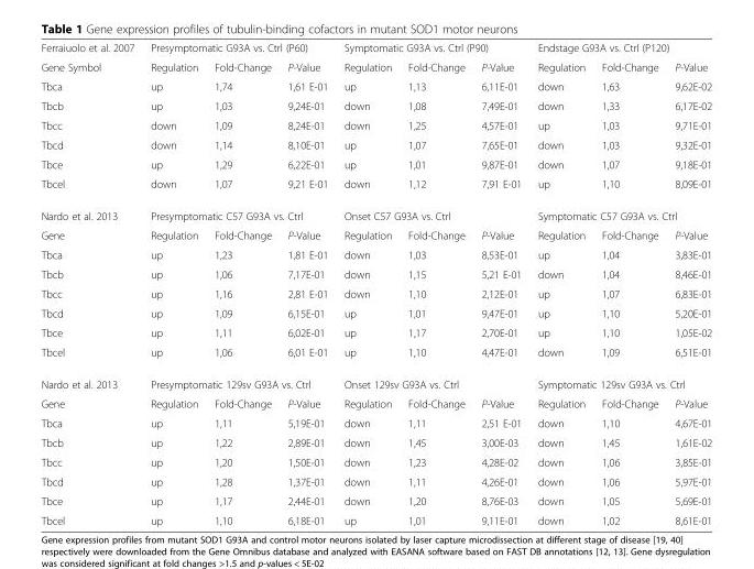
<table><tbody><tr><td>Ferraiuolo et al. 2007</td><td colspan="3">Presymptomatic G93A vs. Ctrl (P60)</td><td colspan="3">Symptomatic G93A vs. Ctrl (P90)</td><td colspan="3">Endstage G93A vs. Ctrl (P120)</td></tr><tr><td>Gene Symbol</td><td>Regulation</td><td>Fold-Change</td><td>P-Value</td><td>Regulation</td><td>Fold-Change</td><td>P-Value</td><td>Regulation</td><td>Fold-Change</td><td>P-Value</td></tr><tr><td>Tbca</td><td>up</td><td>1,74</td><td>1,61 E-01</td><td>up</td><td>1,13</td><td>6,11E-01</td><td>down</td><td>1,63</td><td>9,62E-02</td></tr><tr><td>Tbcb</td><td>up</td><td>1,03</td><td>9,24E-01</td><td>down</td><td>1,08</td><td>7,49E-01</td><td>down</td><td>1,33</td><td>6,17E-02</td></tr><tr><td>Tbcc</td><td>down</td><td>1,09</td><td>8,24E-01</td><td>down</td><td>1,25</td><td>4,57E-01</td><td>up</td><td>1,03</td><td>9,71E-01</td></tr><tr><td>Tbcd</td><td>down</td><td>1,14</td><td>8,10E-01</td><td>up</td><td>1,07</td><td>7,65E-01</td><td>down</td><td>1,03</td><td>9,32E-01</td></tr><tr><td>Tbce</td><td>up</td><td>1,29</td><td>6,22E-01</td><td>up</td><td>1,01</td><td>9,87E-01</td><td>down</td><td>1,07</td><td>9,18E-01</td></tr><tr><td>Tbcel</td><td>down</td><td>1,07</td><td>9,21 E-01</td><td>down</td><td>1,12</td><td>7,91 E-01</td><td>up</td><td>1,10</td><td>8,09E-01</td></tr><tr><td>Nardo et al. 2013</td><td colspan="3">Presymptomatic C57 G93A vs. Ctrl</td><td colspan="3">Onset C57 G93A vs. Ctrl</td><td colspan="3">Symptomatic C57 G93A vs. Ctrl</td></tr><tr><td>Gene</td><td>Regulation</td><td>Fold-Change</td><td>P-Value</td><td>Regulation</td><td>Fold-Change</td><td>P-Value</td><td>Regulation</td><td>Fold-Change</td><td>P-Value</td></tr><tr><td>Tbca</td><td>up</td><td>1,23</td><td>1,81 E-01</td><td>down</td><td>1,03</td><td>8,53E-01</td><td>up</td><td>1,04</td><td>3,83E-01</td></tr><tr><td>Tbcb</td><td>up</td><td>1,06</td><td>7,17E-01</td><td>down</td><td>1,15</td><td>5,21 E-01</td><td>down</td><td>1,04</td><td>8,46E-01</td></tr><tr><td>Tbcc</td><td>up</td><td>1,16</td><td>2,81 E-01</td><td>down</td><td>1,10</td><td>2,12E-01</td><td>up</td><td>1,07</td><td>6,83E-01</td></tr><tr><td>Tbcd</td><td>up</td><td>1,09</td><td>6,15E-01</td><td>up</td><td>1,01</td><td>9,47E-01</td><td>up</td><td>1,10</td><td>5,20E-01</td></tr><tr><td>Tbce</td><td>up</td><td>1,11</td><td>6,02E-01</td><td>up</td><td>1,17</td><td>2,70E-01</td><td>up</td><td>1,10</td><td>1,05E-02</td></tr><tr><td>Tbcel</td><td>up</td><td>1,06</td><td>6,01 E-01</td><td>up</td><td>1,10</td><td>4,47E-01</td><td>down</td><td>1,09</td><td>6,51E-01</td></tr><tr><td>Nardo et al. 2013</td><td colspan="3">Presymptomatic 129sv G93A vs. Ctrl</td><td colspan="3">Onset 129sv G93A vs. Ctrl</td><td colspan="3">Symptomatic 129sv G93A vs. Ctrl</td></tr><tr><td>Gene</td><td>Regulation</td><td>Fold-Change</td><td>P-Value</td><td>Regulation</td><td>Fold-Change</td><td>P-Value</td><td>Regulation</td><td>Fold-Change</td><td>P-Value</td></tr><tr><td>Tbca</td><td>up</td><td>1,11</td><td>5,19E-01</td><td>down</td><td>1,11</td><td>2,51 E-01</td><td>down</td><td>1,10</td><td>4,67E-01</td></tr><tr><td>Tbcb</td><td>up</td><td>1,22</td><td>2,89E-01</td><td>down</td><td>1,45</td><td>3,00E-03</td><td>down</td><td>1,45</td><td>1,61E-02</td></tr><tr><td>Tbcc</td><td>up</td><td>1,20</td><td>1,50E-01</td><td>down</td><td>1,23</td><td>4,28E-02</td><td>down</td><td>1,06</td><td>3,85E-01</td></tr><tr><td>Tbcd</td><td>up</td><td>1,28</td><td>1,37E-01</td><td>down</td><td>1,11</td><td>4,26E-01</td><td>down</td><td>1,06</td><td>5,97E-01</td></tr><tr><td>Tbce</td><td>up</td><td>1,17</td><td>2,44E-01</td><td>down</td><td>1,20</td><td>8,76E-03</td><td>down</td><td>1,05</td><td>5,69E-01</td></tr><tr><td>Tbcel</td><td>up</td><td>1,10</td><td>6,18E-01</td><td>up</td><td>1,01</td><td>9,11E-01</td><td>down</td><td>1,02</td><td>8,61E-01</td></tr></tbody></table>